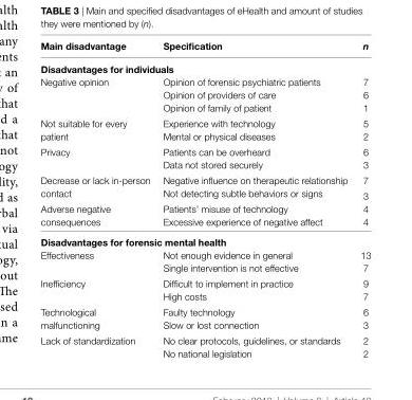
<table><thead><tr><td>main disadvantage</td><td>Specification</td><td>n</td></tr></thead><tbody><tr><td colspan="3">Disadvantages for individuals</td></tr><tr><td rowspan="3">Negative opinion</td><td>Opinion of forensic psychiatric patients</td><td>7</td></tr><tr><td>Opinion of providers of care</td><td>6</td></tr><tr><td>Opinion of family of patient</td><td>1</td></tr><tr><td rowspan="2">Not suitable for every patient</td><td>Experience with technology</td><td>5</td></tr><tr><td>Mental or physical diseases</td><td>2</td></tr><tr><td rowspan="2">Privacy</td><td>Patients can be overheard</td><td>6</td></tr><tr><td>Data not stored securely</td><td>3</td></tr><tr><td rowspan="2">Decrease or lack in-person contact</td><td>Negative influence on therapeutic relationship</td><td>7</td></tr><tr><td>Not detecting subtle behaviors or signs</td><td>3</td></tr><tr><td rowspan="2">Adverse negative consequences</td><td>Patients’ misuse of technology</td><td>4</td></tr><tr><td>Excessive experience of negative affect</td><td>4</td></tr><tr><td colspan="3">Disadvantages for forensic mental health</td></tr><tr><td rowspan="2">Effectiveness</td><td>Not enough evidence in general</td><td>13</td></tr><tr><td>Single intervention is not effective</td><td>7</td></tr><tr><td rowspan="2">Inefficiency</td><td>Difficult to implement in practice</td><td>9</td></tr><tr><td>High costs</td><td>7</td></tr><tr><td rowspan="2">Technological malfunctioning</td><td>Faulty technology</td><td>6</td></tr><tr><td>Slow or lost connection</td><td>3</td></tr><tr><td rowspan="2">Lack of standardization</td><td>No clear protocols, guidelines, or standards</td><td>2</td></tr><tr><td>No national legislation</td><td>2</td></tr></tbody></table>